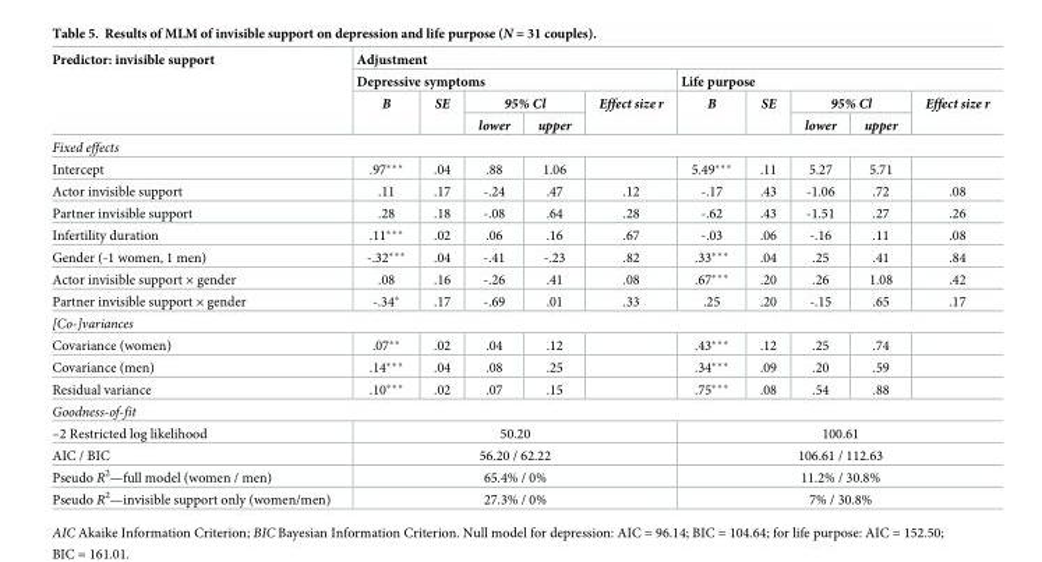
<table><thead><tr><td rowspan="4">Predictor: invisible support</td><td colspan="10">Adjustment</td></tr><tr><td colspan="5">Depressive symptoms</td><td colspan="5">Life purpose</td></tr><tr><td rowspan="2">B</td><td rowspan="2">SE</td><td colspan="2">95% Cl</td><td rowspan="2">Effect size r</td><td rowspan="2">B</td><td rowspan="2">SE</td><td colspan="2">95% Cl</td><td rowspan="2">Effect size r</td></tr><tr><td>lower</td><td>upper</td><td>lower</td><td>upper</td></tr></thead><tbody><tr><td colspan="11">Fixed effects</td></tr><tr><td>Intercept</td><td>.97***</td><td>.04</td><td>.88</td><td>1.06</td><td></td><td>5.49***</td><td>.11</td><td>5.27</td><td>5.71</td><td></td></tr><tr><td>Actor invisible support</td><td>.11</td><td>.17</td><td>-.24</td><td>.47</td><td>.12</td><td>-.17</td><td>.43</td><td>-1.06</td><td>.72</td><td>.08</td></tr><tr><td>Partner invisible support</td><td>.28</td><td>.18</td><td>-.08</td><td>.64</td><td>.28</td><td>-.62</td><td>.43</td><td>-1.51</td><td>.27</td><td>.26</td></tr><tr><td>Infertility duration</td><td>.11***</td><td>.02</td><td>.06</td><td>.16</td><td>.67</td><td>-.03</td><td>.06</td><td>-.16</td><td>.11</td><td>.08</td></tr><tr><td>Gender (-1 women, 1 men)</td><td>-.32***</td><td>.04</td><td>-.41</td><td>-.23</td><td>.82</td><td>.33***</td><td>.04</td><td>.25</td><td>.41</td><td>.84</td></tr><tr><td>Actor invisible support × gender</td><td>.08</td><td>.16</td><td>-.26</td><td>.41</td><td>.08</td><td>.67***</td><td>.20</td><td>.26</td><td>1.08</td><td>.42</td></tr><tr><td>Partner invisible support × gender</td><td>-.34*</td><td>.17</td><td>-.69</td><td>.01</td><td>.33</td><td>.25</td><td>.20</td><td>-.15</td><td>.65</td><td>.17</td></tr><tr><td colspan="11">[Co-]variances</td></tr><tr><td>Covariance (women)</td><td>.07**</td><td>.02</td><td>.04</td><td>.12</td><td></td><td>.43***</td><td>.12</td><td>.25</td><td>.74</td><td></td></tr><tr><td>Covariance (men)</td><td>.14***</td><td>.04</td><td>.08</td><td>.25</td><td></td><td>.34***</td><td>.09</td><td>.20</td><td>.59</td><td></td></tr><tr><td>Residual variance</td><td>.10***</td><td>.02</td><td>.07</td><td>.15</td><td></td><td>.75***</td><td>.08</td><td>.54</td><td>.88</td><td></td></tr><tr><td colspan="11">Goodness-of-fit</td></tr><tr><td>–2 Restricted log likelihood</td><td colspan="5">50.20</td><td colspan="5">100.61</td></tr><tr><td>AIC / BIC</td><td colspan="5">56.20 / 62.22</td><td colspan="5">106.61 / 112.63</td></tr><tr><td>Pseudo R<sup>2</sup>—full model (women / men)</td><td colspan="5">65.4% / 0%</td><td colspan="5">11.2% / 30.8%</td></tr><tr><td>Pseudo R<sup>2</sup>—invisible support only (women/men)</td><td colspan="5">27.3% / 0%</td><td colspan="5">7% / 30.8%</td></tr></tbody></table>